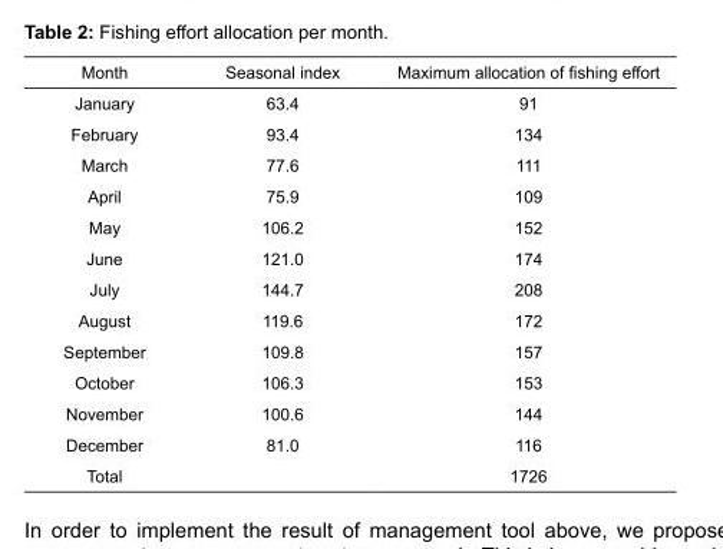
<table><thead><tr><td>Month</td><td>Seasonal index</td><td>Maximum allocation of fishing effort</td></tr></thead><tbody><tr><td>January</td><td>63.4</td><td>91</td></tr><tr><td>February</td><td>93.4</td><td>134</td></tr><tr><td>March</td><td>77.6</td><td>111</td></tr><tr><td>April</td><td>75.9</td><td>109</td></tr><tr><td>May</td><td>106.2</td><td>152</td></tr><tr><td>June</td><td>121.0</td><td>174</td></tr><tr><td>July</td><td>144.7</td><td>208</td></tr><tr><td>August</td><td>119.6</td><td>172</td></tr><tr><td>September</td><td>109.8</td><td>157</td></tr><tr><td>October</td><td>106.3</td><td>153</td></tr><tr><td>November</td><td>100.6</td><td>144</td></tr><tr><td>December</td><td>81.0</td><td>116</td></tr><tr><td>Total</td><td></td><td>1726</td></tr></tbody></table>